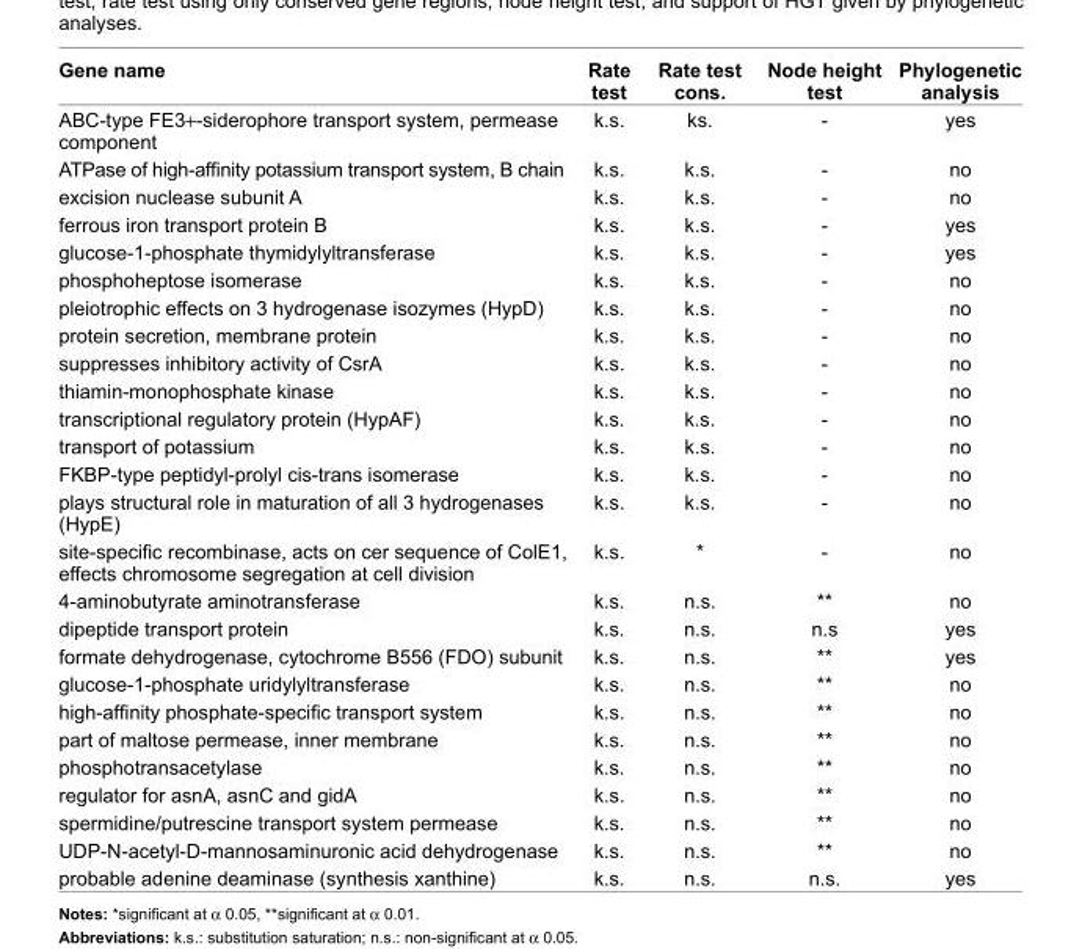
<table><thead><tr><td>Gene name</td><td>Rate test</td><td>Rate test cons.</td><td>Node height test</td><td>Phylogenetic analysis</td></tr></thead><tbody><tr><td>ABC-type FE3+-siderophore transport system, permease component</td><td>k.s.</td><td>ks.</td><td>-</td><td>yes</td></tr><tr><td>ATPase of high-affi nity potassium transport system, B chain</td><td>k.s.</td><td>k.s.</td><td>-</td><td>no</td></tr><tr><td>excision nuclease subunit A</td><td>k.s.</td><td>k.s.</td><td>-</td><td>no</td></tr><tr><td>ferrous iron transport protein B</td><td>k.s.</td><td>k.s.</td><td>-</td><td>yes</td></tr><tr><td>glucose-1-phosphate thymidylyltransferase</td><td>k.s.</td><td>k.s.</td><td>-</td><td>yes</td></tr><tr><td>phosphoheptose isomerase</td><td>k.s.</td><td>k.s.</td><td>-</td><td>no</td></tr><tr><td>pleiotrophic effects on 3 hydrogenase isozymes (HypD)</td><td>k.s.</td><td>k.s.</td><td>-</td><td>no</td></tr><tr><td>protein secretion, membrane protein</td><td>k.s.</td><td>k.s.</td><td>-</td><td>no</td></tr><tr><td>suppresses inhibitory activity of CsrA</td><td>k.s.</td><td>k.s.</td><td>-</td><td>no</td></tr><tr><td>thiamin-monophosphate kinase</td><td>k.s.</td><td>k.s.</td><td>-</td><td>no</td></tr><tr><td>transcriptional regulatory protein (HypAF)</td><td>k.s.</td><td>k.s.</td><td>-</td><td>no</td></tr><tr><td>transport of potassium</td><td>k.s.</td><td>k.s.</td><td>-</td><td>no</td></tr><tr><td>FKBP-type peptidyl-prolyl cis-trans isomerase</td><td>k.s.</td><td>k.s.</td><td>-</td><td>no</td></tr><tr><td>plays structural role in maturation of all 3 hydrogenases (HypE)</td><td>k.s.</td><td>k.s.</td><td>-</td><td>no</td></tr><tr><td>site-specifi c recombinase, acts on cer sequence of ColE1, effects chromosome segregation at cell division</td><td>k.s.</td><td>*</td><td>-</td><td>no</td></tr><tr><td>4-aminobutyrate aminotransferase</td><td>k.s.</td><td>n.s.</td><td>**</td><td>no</td></tr><tr><td>dipeptide transport protein</td><td>k.s.</td><td>n.s.</td><td>n.s</td><td>yes</td></tr><tr><td>formate dehydrogenase, cytochrome B556 (FDO) subunit</td><td>k.s.</td><td>n.s.</td><td>**</td><td>yes</td></tr><tr><td>glucose-1-phosphate uridylyltransferase</td><td>k.s.</td><td>n.s.</td><td>**</td><td>no</td></tr><tr><td>high-affi nity phosphate-specifi c transport system</td><td>k.s.</td><td>n.s.</td><td>**</td><td>no</td></tr><tr><td>part of maltose permease, inner membrane</td><td>k.s.</td><td>n.s.</td><td>**</td><td>no</td></tr><tr><td>phosphotransacetylase</td><td>k.s.</td><td>n.s.</td><td>**</td><td>no</td></tr><tr><td>regulator for asnA, asnC and gidA</td><td>k.s.</td><td>n.s.</td><td>**</td><td>no</td></tr><tr><td>spermidine/putrescine transport system permease</td><td>k.s.</td><td>n.s.</td><td>**</td><td>no</td></tr><tr><td>UDP-N-acetyl-D-mannosaminuronic acid dehydrogenase</td><td>k.s.</td><td>n.s.</td><td>**</td><td>no</td></tr><tr><td>probable adenine deaminase (synthesis xanthine)</td><td>k.s.</td><td>n.s.</td><td>n.s.</td><td>yes</td></tr></tbody></table>